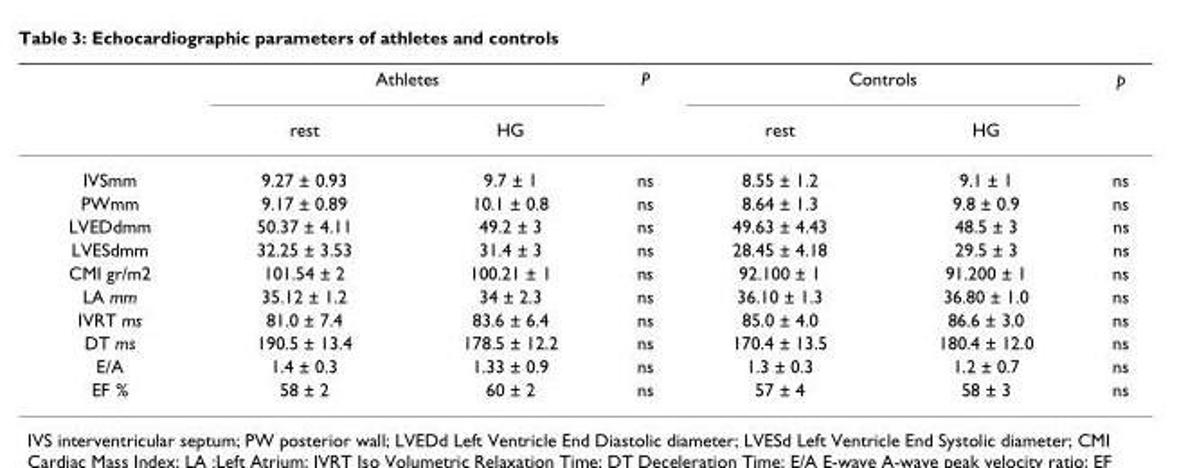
<table><thead><tr><td rowspan="2"></td><td colspan="2">Athletes</td><td rowspan="2">P</td><td colspan="2">Controls</td><td rowspan="2">p</td></tr><tr><td>rest</td><td>HG</td><td>rest</td><td>HG</td></tr></thead><tbody><tr><td>IVSmm</td><td>9.27 ± 0.93</td><td>9.7 ± 1</td><td>ns</td><td>8.55 ± 1.2</td><td>9.1 ± 1</td><td>ns</td></tr><tr><td>PWmm</td><td>9.17 ± 0.89</td><td>10.1 ± 0.8</td><td>ns</td><td>8.64 ± 1.3</td><td>9.8 ± 0.9</td><td>ns</td></tr><tr><td>LVEDdmm</td><td>50.37 ± 4.11</td><td>49.2 ± 3</td><td>ns</td><td>49.63 ± 4.43</td><td>48.5 ± 3</td><td>ns</td></tr><tr><td>LVESdmm</td><td>32.25 ± 3.53</td><td>31.4 ± 3</td><td>ns</td><td>28.45 ± 4.18</td><td>29.5 ± 3</td><td>ns</td></tr><tr><td>CMI gr/m2</td><td>101.54 ± 2</td><td>100.21 ± 1</td><td>ns</td><td>92.100 ± 1</td><td>91.200 ± 1</td><td>ns</td></tr><tr><td>LA mm</td><td>35.12 ± 1.2</td><td>34 ± 2.3</td><td>ns</td><td>36.10 ± 1.3</td><td>36.80 ± 1.0</td><td>ns</td></tr><tr><td>IVRT ms</td><td>81.0 ± 7.4</td><td>83.6 ± 6.4</td><td>ns</td><td>85.0 ± 4.0</td><td>86.6 ± 3.0</td><td>ns</td></tr><tr><td>DT ms</td><td>190.5 ± 13.4</td><td>178.5 ± 12.2</td><td>ns</td><td>170.4 ± 13.5</td><td>180.4 ± 12.0</td><td>ns</td></tr><tr><td>E/A</td><td>1.4 ± 0.3</td><td>1.33 ± 0.9</td><td>ns</td><td>1.3 ± 0.3</td><td>1.2 ± 0.7</td><td>ns</td></tr><tr><td>EF %</td><td>58 ± 2</td><td>60 ± 2</td><td>ns</td><td>57 ± 4</td><td>58 ± 3</td><td>ns</td></tr></tbody></table>